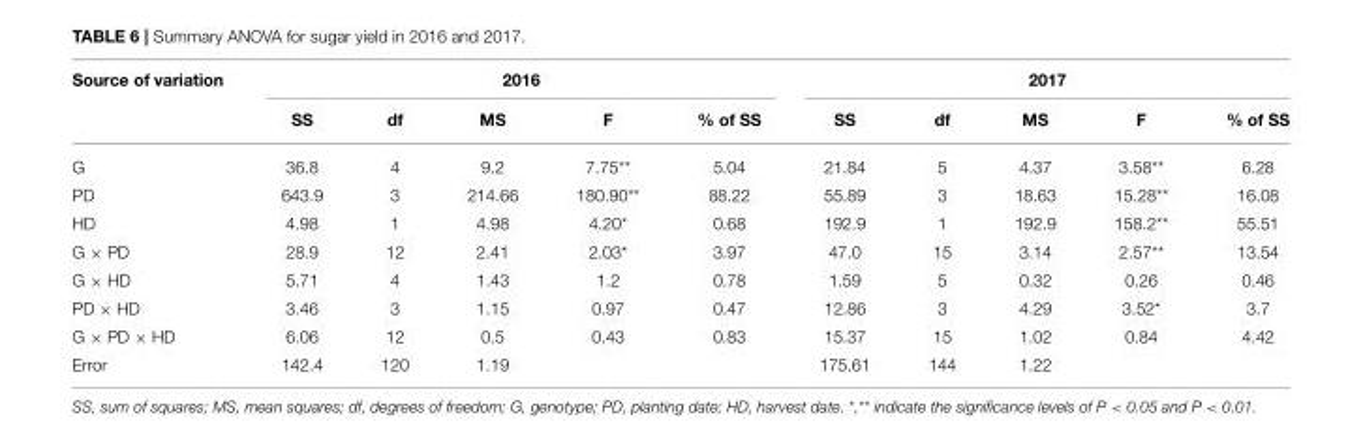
<table><thead><tr><td rowspan="2">Source of variation</td><td colspan="5">2016</td><td colspan="5">2017</td></tr><tr><td>SS</td><td>df</td><td>MS</td><td>F</td><td>% of SS</td><td>SS</td><td>df</td><td>MS</td><td>F</td><td>% of SS</td></tr></thead><tbody><tr><td>G</td><td>36.8</td><td>4</td><td>9.2</td><td>7.75**</td><td>5.04</td><td>21.84</td><td>5</td><td>4.37</td><td>3.58**</td><td>6.28</td></tr><tr><td>PD</td><td>643.9</td><td>3</td><td>214.66</td><td>180.90**</td><td>88.22</td><td>55.89</td><td>3</td><td>18.63</td><td>15.28**</td><td>16.08</td></tr><tr><td>HD</td><td>4.98</td><td>1</td><td>4.98</td><td>4.20*</td><td>0.68</td><td>192.9</td><td>1</td><td>192.9</td><td>158.2**</td><td>55.51</td></tr><tr><td>G × PD</td><td>28.9</td><td>12</td><td>2.41</td><td>2.03*</td><td>3.97</td><td>47.0</td><td>15</td><td>3.14</td><td>2.57**</td><td>13.54</td></tr><tr><td>G × HD</td><td>5.71</td><td>4</td><td>1.43</td><td>1.2</td><td>0.78</td><td>1.59</td><td>5</td><td>0.32</td><td>0.26</td><td>0.46</td></tr><tr><td>PD × HD</td><td>3.46</td><td>3</td><td>1.15</td><td>0.97</td><td>0.47</td><td>12.86</td><td>3</td><td>4.29</td><td>3.52*</td><td>3.7</td></tr><tr><td>G × PD × HD</td><td>6.06</td><td>12</td><td>0.5</td><td>0.43</td><td>0.83</td><td>15.37</td><td>15</td><td>1.02</td><td>0.84</td><td>4.42</td></tr><tr><td>Error</td><td>142.4</td><td>120</td><td>1.19</td><td></td><td></td><td>175.61</td><td>144</td><td>1.22</td><td></td><td></td></tr></tbody></table>